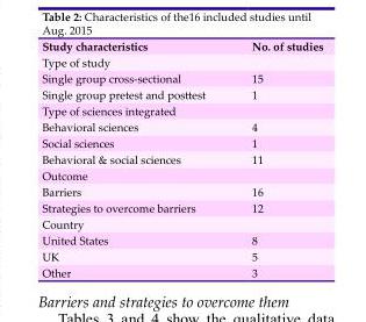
<table><thead><tr><td>Study characteristics</td><td>No. of studies</td></tr></thead><tbody><tr><td colspan="2">Type of study</td></tr><tr><td>Single group cross-sectional</td><td>15</td></tr><tr><td>Single group pretest and posttest</td><td>1</td></tr><tr><td colspan="2">Type of sciences integrated</td></tr><tr><td>Behavioral sciences</td><td>4</td></tr><tr><td>Social sciences</td><td>1</td></tr><tr><td>Behavioral &amp; social sciences</td><td>11</td></tr><tr><td colspan="2">Outcome</td></tr><tr><td>Barriers</td><td>16</td></tr><tr><td>Strategies to overcome barriers</td><td>12</td></tr><tr><td colspan="2">Country</td></tr><tr><td>United States</td><td>8</td></tr><tr><td>UK</td><td>5</td></tr><tr><td>Other</td><td>3</td></tr></tbody></table>